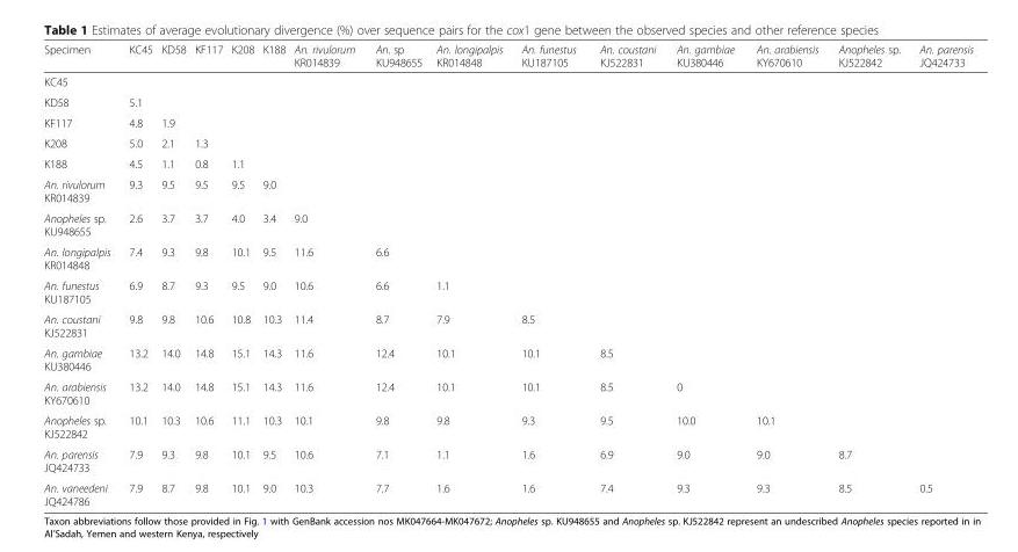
<table><thead><tr><td>Specimen</td><td>KC45</td><td>KD58</td><td>KF117</td><td>K208</td><td>K188</td><td>An. rivulorum KR014839</td><td>An. sp KU948655</td><td>An. longipalpis KR014848</td><td>An. funestus KU187105</td><td>An. coustani KJ522831</td><td>An. gambiae KU380446</td><td>An. arabiensis KY670610</td><td>Anopheles sp. KJ522842</td><td>An. parensis JQ424733</td></tr></thead><tbody><tr><td colspan="15">KC45</td></tr><tr><td>KD58</td><td>5.1</td><td></td><td></td><td></td><td></td><td></td><td></td><td></td><td></td><td></td><td></td><td></td><td></td><td></td></tr><tr><td>KF117</td><td>4.8</td><td>1.9</td><td></td><td></td><td></td><td></td><td></td><td></td><td></td><td></td><td></td><td></td><td></td><td></td></tr><tr><td>K208</td><td>5.0</td><td>2.1</td><td>1.3</td><td></td><td></td><td></td><td></td><td></td><td></td><td></td><td></td><td></td><td></td><td></td></tr><tr><td>K188</td><td>4.5</td><td>1.1</td><td>0.8</td><td>1.1</td><td></td><td></td><td></td><td></td><td></td><td></td><td></td><td></td><td></td><td></td></tr><tr><td>An. rivulorum KR014839</td><td>9.3</td><td>9.5</td><td>9.5</td><td>9.5</td><td>9.0</td><td></td><td></td><td></td><td></td><td></td><td></td><td></td><td></td><td></td></tr><tr><td>Anopheles sp. KU948655</td><td>2.6</td><td>3.7</td><td>3.7</td><td>4.0</td><td>3.4</td><td>9.0</td><td></td><td></td><td></td><td></td><td></td><td></td><td></td><td></td></tr><tr><td>An. longipalpis KR014848</td><td>7.4</td><td>9.3</td><td>9.8</td><td>10.1</td><td>9.5</td><td>11.6</td><td>6.6</td><td></td><td></td><td></td><td></td><td></td><td></td><td></td></tr><tr><td>An. funestus KU187105</td><td>6.9</td><td>8.7</td><td>9.3</td><td>9.5</td><td>9.0</td><td>10.6</td><td>6.6</td><td>1.1</td><td></td><td></td><td></td><td></td><td></td><td></td></tr><tr><td>An. coustani KJ522831</td><td>9.8</td><td>9.8</td><td>10.6</td><td>10.8</td><td>10.3</td><td>11.4</td><td>8.7</td><td>7.9</td><td>8.5</td><td></td><td></td><td></td><td></td><td></td></tr><tr><td>An. gambiae KU380446</td><td>13.2</td><td>14.0</td><td>14.8</td><td>15.1</td><td>14.3</td><td>11.6</td><td>12.4</td><td>10.1</td><td>10.1</td><td>8.5</td><td></td><td></td><td></td><td></td></tr><tr><td>An. arabiensis KY670610</td><td>13.2</td><td>14.0</td><td>14.8</td><td>15.1</td><td>14.3</td><td>11.6</td><td>12.4</td><td>10.1</td><td>10.1</td><td>8.5</td><td>0</td><td></td><td></td><td></td></tr><tr><td>Anopheles sp. KJ522842</td><td>10.1</td><td>10.3</td><td>10.6</td><td>11.1</td><td>10.3</td><td>10.1</td><td>9.8</td><td>9.8</td><td>9.3</td><td>9.5</td><td>10.0</td><td>10.1</td><td></td><td></td></tr><tr><td>An. parensis JQ424733</td><td>7.9</td><td>9.3</td><td>9.8</td><td>10.1</td><td>9.5</td><td>10.6</td><td>7.1</td><td>1.1</td><td>1.6</td><td>6.9</td><td>9.0</td><td>9.0</td><td>8.7</td><td></td></tr><tr><td>An. vaneedeni JQ424786</td><td>7.9</td><td>8.7</td><td>9.8</td><td>10.1</td><td>9.0</td><td>10.3</td><td>7.7</td><td>1.6</td><td>1.6</td><td>7.4</td><td>9.3</td><td>9.3</td><td>8.5</td><td>0.5</td></tr></tbody></table>